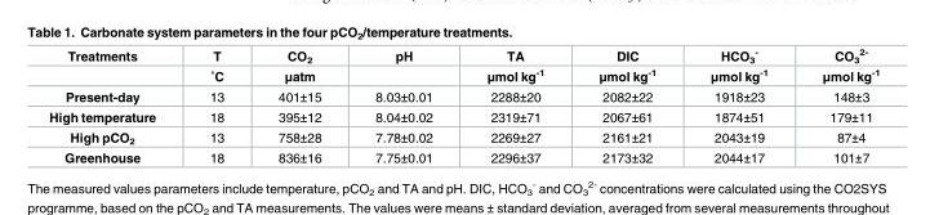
<table><thead><tr><td rowspan="2">Treatments</td><td rowspan="2">T ˚C</td><td rowspan="2">CO<sub>2</sub> μatm</td><td rowspan="2">pH</td><td rowspan="2">TA μmol kg<sup>-1</sup></td><td rowspan="2">DIC μmol kg<sup>-1</sup></td><td rowspan="2">HCO<sub>3</sub> <sup>-</sup> μmol kg<sup>-1</sup></td><td rowspan="2">CO<sub>3</sub> <sup>2-</sup> μmol kg<sup>-1</sup></td></tr><tr></tr></thead><tbody><tr><td>Present-day</td><td>13</td><td>401±15</td><td>8.03±0.01</td><td>2288±20</td><td>2082±22</td><td>1918±23</td><td>148±3</td></tr><tr><td>High temperature</td><td>18</td><td>395±12</td><td>8.04±0.02</td><td>2319±71</td><td>2067±61</td><td>1874±51</td><td>179±11</td></tr><tr><td>High pCO<sub>2</sub></td><td>13</td><td>758±28</td><td>7.78±0.02</td><td>2269±27</td><td>2161±21</td><td>2043±19</td><td>87±4</td></tr><tr><td>Greenhouse</td><td>18</td><td>836±16</td><td>7.75±0.01</td><td>2296±37</td><td>2173±32</td><td>2044±17</td><td>101±7</td></tr></tbody></table>